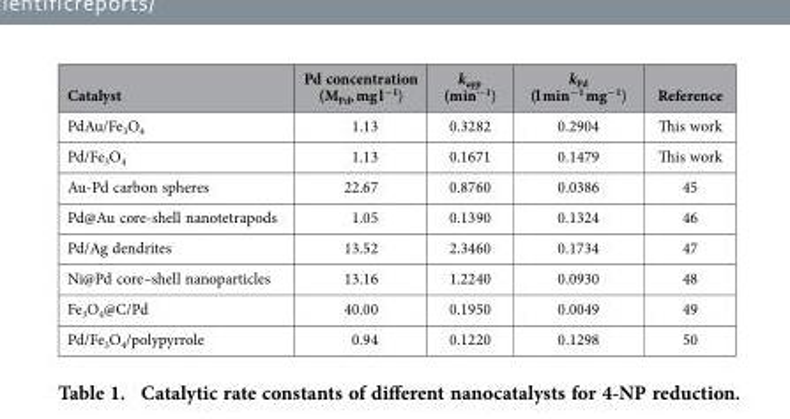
<table><thead><tr><td>Catalyst</td><td>Pd concentration (M<sub>Pd</sub>, mg l<sup>−1</sup>)</td><td>k<sub>app</sub> (min<sup>−1</sup>)</td><td>k<sub>Pd</sub> (l min<sup>−1</sup> mg<sup>−1</sup>)</td><td>Reference</td></tr></thead><tbody><tr><td>PdAu/Fe<sub>3</sub>O<sub>4</sub></td><td>1.13</td><td>0.3282</td><td>0.2904</td><td>This work</td></tr><tr><td>Pd/Fe<sub>3</sub>O<sub>4</sub></td><td>1.13</td><td>0.1671</td><td>0.1479</td><td>This work</td></tr><tr><td>Au-Pd carbon spheres</td><td>22.67</td><td>0.8760</td><td>0.0386</td><td>45</td></tr><tr><td>Pd@Au core-shell nanotetrapods</td><td>1.05</td><td>0.1390</td><td>0.1324</td><td>46</td></tr><tr><td>Pd/Ag dendrites</td><td>13.52</td><td>2.3460</td><td>0.1734</td><td>47</td></tr><tr><td>Ni@Pd core–shell nanoparticles</td><td>13.16</td><td>1.2240</td><td>0.0930</td><td>48</td></tr><tr><td>Fe<sub>3</sub>O<sub>4</sub>@C/Pd</td><td>40.00</td><td>0.1950</td><td>0.0049</td><td>49</td></tr><tr><td>Pd/Fe<sub>3</sub>O<sub>4</sub>/polypyrrole</td><td>0.94</td><td>0.1220</td><td>0.1298</td><td>50</td></tr></tbody></table>